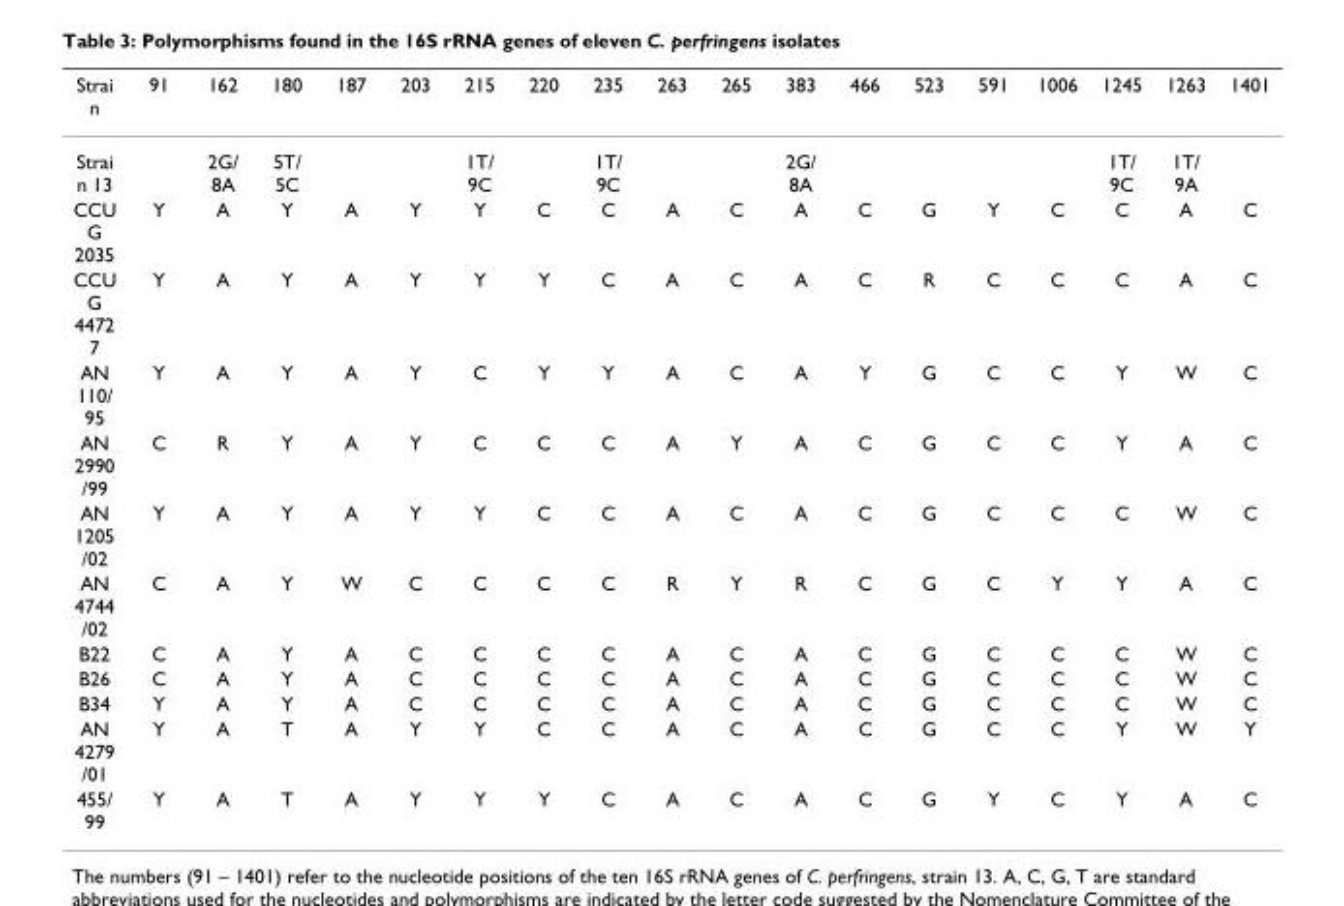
<table><thead><tr><td>Strai n</td><td>91</td><td>162</td><td>180</td><td>187</td><td>203</td><td>215</td><td>220</td><td>235</td><td>263</td><td>265</td><td>383</td><td>466</td><td>523</td><td>591</td><td>1006</td><td>1245</td><td>1263</td><td>1401</td></tr></thead><tbody><tr><td>Strai n 13</td><td></td><td>2G/ 8A</td><td>5T/ 5C</td><td></td><td></td><td>1T/ 9C</td><td></td><td>1T/ 9C</td><td></td><td></td><td>2G/ 8A</td><td></td><td></td><td></td><td></td><td>1T/ 9C</td><td>1T/ 9A</td><td></td></tr><tr><td>CCU G 2035</td><td>Y</td><td>A</td><td>Y</td><td>A</td><td>Y</td><td>Y</td><td>C</td><td>C</td><td>A</td><td>C</td><td>A</td><td>C</td><td>G</td><td>Y</td><td>C</td><td>C</td><td>A</td><td>C</td></tr><tr><td>CCU G 4472 7</td><td>Y</td><td>A</td><td>Y</td><td>A</td><td>Y</td><td>Y</td><td>Y</td><td>C</td><td>A</td><td>C</td><td>A</td><td>C</td><td>R</td><td>C</td><td>C</td><td>C</td><td>A</td><td>C</td></tr><tr><td>AN 110/ 95</td><td>Y</td><td>A</td><td>Y</td><td>A</td><td>Y</td><td>C</td><td>Y</td><td>Y</td><td>A</td><td>C</td><td>A</td><td>Y</td><td>G</td><td>C</td><td>C</td><td>Y</td><td>W</td><td>C</td></tr><tr><td>AN 2990 /99</td><td>C</td><td>R</td><td>Y</td><td>A</td><td>Y</td><td>C</td><td>C</td><td>C</td><td>A</td><td>Y</td><td>A</td><td>C</td><td>G</td><td>C</td><td>C</td><td>Y</td><td>A</td><td>C</td></tr><tr><td>AN 1205 /02</td><td>Y</td><td>A</td><td>Y</td><td>A</td><td>Y</td><td>Y</td><td>C</td><td>C</td><td>A</td><td>C</td><td>A</td><td>C</td><td>G</td><td>C</td><td>C</td><td>C</td><td>W</td><td>C</td></tr><tr><td>AN 4744 /02</td><td>C</td><td>A</td><td>Y</td><td>W</td><td>C</td><td>C</td><td>C</td><td>C</td><td>R</td><td>Y</td><td>R</td><td>C</td><td>G</td><td>C</td><td>Y</td><td>Y</td><td>A</td><td>C</td></tr><tr><td>B22</td><td>C</td><td>A</td><td>Y</td><td>A</td><td>C</td><td>C</td><td>C</td><td>C</td><td>A</td><td>C</td><td>A</td><td>C</td><td>G</td><td>C</td><td>C</td><td>C</td><td>W</td><td>C</td></tr><tr><td>B26</td><td>C</td><td>A</td><td>Y</td><td>A</td><td>C</td><td>C</td><td>C</td><td>C</td><td>A</td><td>C</td><td>A</td><td>C</td><td>G</td><td>C</td><td>C</td><td>C</td><td>W</td><td>C</td></tr><tr><td>B34</td><td>Y</td><td>A</td><td>Y</td><td>A</td><td>C</td><td>C</td><td>C</td><td>C</td><td>A</td><td>C</td><td>A</td><td>C</td><td>G</td><td>C</td><td>C</td><td>C</td><td>W</td><td>C</td></tr><tr><td>AN 4279 /01</td><td>Y</td><td>A</td><td>T</td><td>A</td><td>Y</td><td>Y</td><td>C</td><td>C</td><td>A</td><td>C</td><td>A</td><td>C</td><td>G</td><td>C</td><td>C</td><td>Y</td><td>W</td><td>Y</td></tr><tr><td>455/ 99</td><td>Y</td><td>A</td><td>T</td><td>A</td><td>Y</td><td>Y</td><td>Y</td><td>C</td><td>A</td><td>C</td><td>A</td><td>C</td><td>G</td><td>Y</td><td>C</td><td>Y</td><td>A</td><td>C</td></tr></tbody></table>